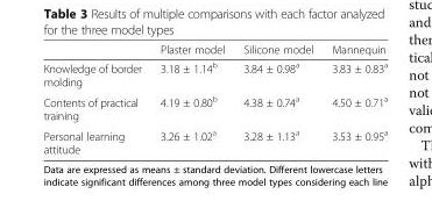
<table><thead><tr><td></td><td>Plaster model</td><td>Silicone model</td><td>Mannequin</td></tr></thead><tbody><tr><td>Knowledge of border molding</td><td>3.18 ± 1.14<sup>b</sup></td><td>3.84 ± 0.98<sup>a</sup></td><td>3.83 ± 0.83<sup>a</sup></td></tr><tr><td>Contents of practical training</td><td>4.19 ± 0.80<sup>b</sup></td><td>4.38 ± 0.74<sup>a</sup></td><td>4.50 ± 0.71<sup>a</sup></td></tr><tr><td>Personal learning attitude</td><td>3.26 ± 1.02<sup>a</sup></td><td>3.28 ± 1.13<sup>a</sup></td><td>3.53 ± 0.95<sup>a</sup></td></tr></tbody></table>